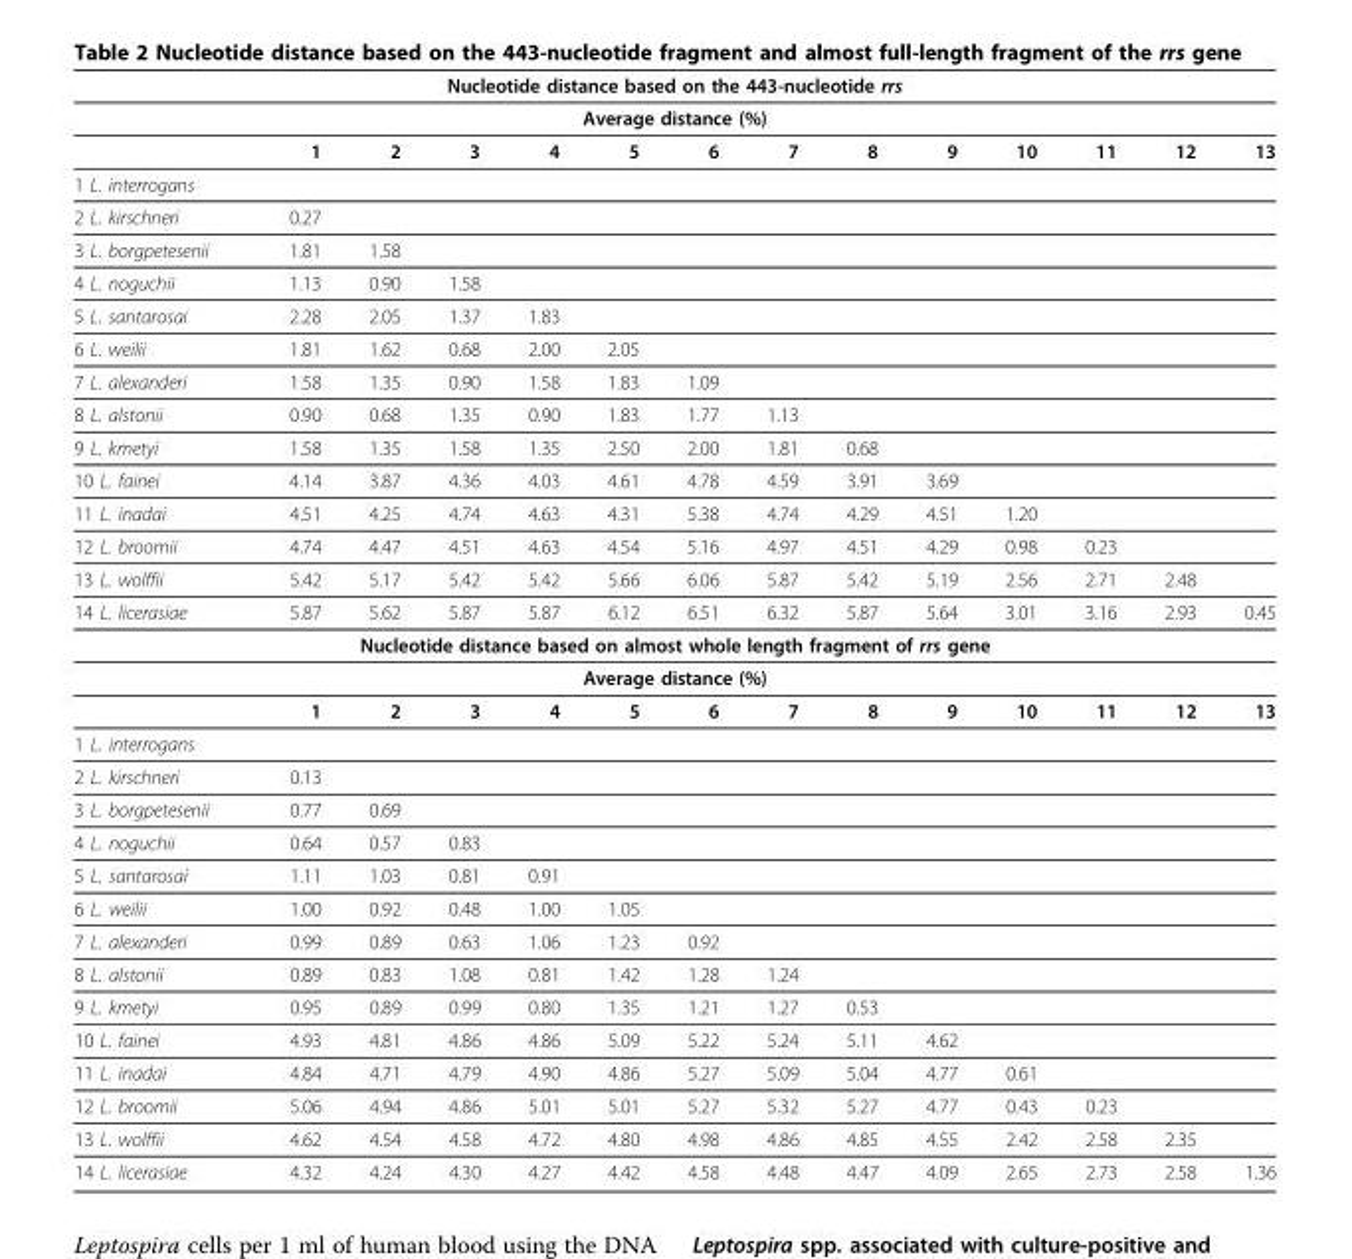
<table><thead><tr><td rowspan="2" colspan="14">Nucleotide distance based on the 443-nucleotide rrs Average distance (%)</td></tr><tr></tr><tr><td></td><td>1</td><td>2</td><td>3</td><td>4</td><td>5</td><td>6</td><td>7</td><td>8</td><td>9</td><td>10</td><td>11</td><td>12</td><td>13</td></tr></thead><tbody><tr><td colspan="14">1 L. interrogans</td></tr><tr><td>2 L. kirschneri</td><td>0.27</td><td></td><td></td><td></td><td></td><td></td><td></td><td></td><td></td><td></td><td></td><td></td><td></td></tr><tr><td>3 L. borgpetesenii</td><td>1.81</td><td>1.58</td><td></td><td></td><td></td><td></td><td></td><td></td><td></td><td></td><td></td><td></td><td></td></tr><tr><td>4 L. noguchii</td><td>1.13</td><td>0.90</td><td>1.58</td><td></td><td></td><td></td><td></td><td></td><td></td><td></td><td></td><td></td><td></td></tr><tr><td>5 L. santarosai</td><td>2.28</td><td>2.05</td><td>1.37</td><td>1.83</td><td></td><td></td><td></td><td></td><td></td><td></td><td></td><td></td><td></td></tr><tr><td>6 L. weilii</td><td>1.81</td><td>1.62</td><td>0.68</td><td>2.00</td><td>2.05</td><td></td><td></td><td></td><td></td><td></td><td></td><td></td><td></td></tr><tr><td>7 L. alexanderi</td><td>1.58</td><td>1.35</td><td>0.90</td><td>1.58</td><td>1.83</td><td>1.09</td><td></td><td></td><td></td><td></td><td></td><td></td><td></td></tr><tr><td>8 L. alstonii</td><td>0.90</td><td>0.68</td><td>1.35</td><td>0.90</td><td>1.83</td><td>1.77</td><td>1.13</td><td></td><td></td><td></td><td></td><td></td><td></td></tr><tr><td>9 L. kmetyi</td><td>1.58</td><td>1.35</td><td>1.58</td><td>1.35</td><td>2.50</td><td>2.00</td><td>1.81</td><td>0.68</td><td></td><td></td><td></td><td></td><td></td></tr><tr><td>10 L. fainei</td><td>4.14</td><td>3.87</td><td>4.36</td><td>4.03</td><td>4.61</td><td>4.78</td><td>4.59</td><td>3.91</td><td>3.69</td><td></td><td></td><td></td><td></td></tr><tr><td>11 L. inadai</td><td>4.51</td><td>4.25</td><td>4.74</td><td>4.63</td><td>4.31</td><td>5.38</td><td>4.74</td><td>4.29</td><td>4.51</td><td>1.20</td><td></td><td></td><td></td></tr><tr><td>12 L. broomii</td><td>4.74</td><td>4.47</td><td>4.51</td><td>4.63</td><td>4.54</td><td>5.16</td><td>4.97</td><td>4.51</td><td>4.29</td><td>0.98</td><td>0.23</td><td></td><td></td></tr><tr><td>13 L. wolffii</td><td>5.42</td><td>5.17</td><td>5.42</td><td>5.42</td><td>5.66</td><td>6.06</td><td>5.87</td><td>5.42</td><td>5.19</td><td>2.56</td><td>2.71</td><td>2.48</td><td></td></tr><tr><td>14 L. licerasiae</td><td>5.87</td><td>5.62</td><td>5.87</td><td>5.87</td><td>6.12</td><td>6.51</td><td>6.32</td><td>5.87</td><td>5.64</td><td>3.01</td><td>3.16</td><td>2.93</td><td>0.45</td></tr><tr><td colspan="14">Nucleotide distance based on almost whole length fragment of rrs gene</td></tr><tr><td colspan="14">Average distance (%)</td></tr><tr><td></td><td>1</td><td>2</td><td>3</td><td>4</td><td>5</td><td>6</td><td>7</td><td>8</td><td>9</td><td>10</td><td>11</td><td>12</td><td>13</td></tr><tr><td colspan="14">1 L. interrogans</td></tr><tr><td>2 L. kirschneri</td><td>0.13</td><td></td><td></td><td></td><td></td><td></td><td></td><td></td><td></td><td></td><td></td><td></td><td></td></tr><tr><td>3 L. borgpetesenii</td><td>0.77</td><td>0.69</td><td></td><td></td><td></td><td></td><td></td><td></td><td></td><td></td><td></td><td></td><td></td></tr><tr><td>4 L. noguchii</td><td>0.64</td><td>0.57</td><td>0.83</td><td></td><td></td><td></td><td></td><td></td><td></td><td></td><td></td><td></td><td></td></tr><tr><td>5 L. santarosai</td><td>1.11</td><td>1.03</td><td>0.81</td><td>0.91</td><td></td><td></td><td></td><td></td><td></td><td></td><td></td><td></td><td></td></tr><tr><td>6 L. weilii</td><td>1.00</td><td>0.92</td><td>0.48</td><td>1.00</td><td>1.05</td><td></td><td></td><td></td><td></td><td></td><td></td><td></td><td></td></tr><tr><td>7 L. alexanderi</td><td>0.99</td><td>0.89</td><td>0.63</td><td>1.06</td><td>1.23</td><td>0.92</td><td></td><td></td><td></td><td></td><td></td><td></td><td></td></tr><tr><td>8 L. alstonii</td><td>0.89</td><td>0.83</td><td>1.08</td><td>0.81</td><td>1.42</td><td>1.28</td><td>1.24</td><td></td><td></td><td></td><td></td><td></td><td></td></tr><tr><td>9 L. kmetyi</td><td>0.95</td><td>0.89</td><td>0.99</td><td>0.80</td><td>1.35</td><td>1.21</td><td>1.27</td><td>0.53</td><td></td><td></td><td></td><td></td><td></td></tr><tr><td>10 L. fainei</td><td>4.93</td><td>4.81</td><td>4.86</td><td>4.86</td><td>5.09</td><td>5.22</td><td>5.24</td><td>5.11</td><td>4.62</td><td></td><td></td><td></td><td></td></tr><tr><td>11 L. inadai</td><td>4.84</td><td>4.71</td><td>4.79</td><td>4.90</td><td>4.86</td><td>5.27</td><td>5.09</td><td>5.04</td><td>4.77</td><td>0.61</td><td></td><td></td><td></td></tr><tr><td>12 L. broomii</td><td>5.06</td><td>4.94</td><td>4.86</td><td>5.01</td><td>5.01</td><td>5.27</td><td>5.32</td><td>5.27</td><td>4.77</td><td>0.43</td><td>0.23</td><td></td><td></td></tr><tr><td>13 L. wolffii</td><td>4.62</td><td>4.54</td><td>4.58</td><td>4.72</td><td>4.80</td><td>4.98</td><td>4.86</td><td>4.85</td><td>4.55</td><td>2.42</td><td>2.58</td><td>2.35</td><td></td></tr><tr><td>14 L. licerasiae</td><td>4.32</td><td>4.24</td><td>4.30</td><td>4.27</td><td>4.42</td><td>4.58</td><td>4.48</td><td>4.47</td><td>4.09</td><td>2.65</td><td>2.73</td><td>2.58</td><td>1.36</td></tr></tbody></table>